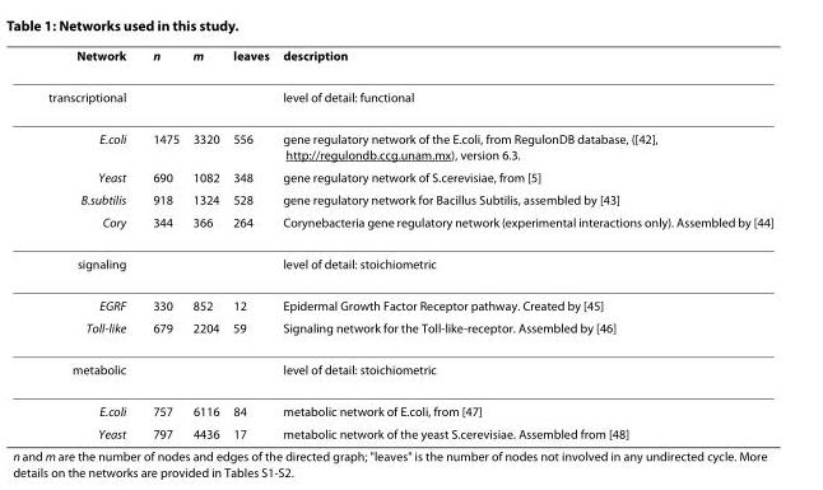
<table><thead><tr><td>Network</td><td>n</td><td>m</td><td>leaves</td><td>description</td></tr></thead><tbody><tr><td>transcriptional</td><td></td><td></td><td></td><td>level of detail: functional</td></tr><tr><td>E.coli</td><td>1475</td><td>3320</td><td>556</td><td>gene regulatory network of the E.coli, from RegulonDB database, ([42], http://regulondb.ccg.unam.mx), version 6.3.</td></tr><tr><td>Yeast</td><td>690</td><td>1082</td><td>348</td><td>gene regulatory network of S.cerevisiae, from [5]</td></tr><tr><td>B.subtilis</td><td>918</td><td>1324</td><td>528</td><td>gene regulatory network for Bacillus Subtilis, assembled by [43]</td></tr><tr><td>Cory</td><td>344</td><td>366</td><td>264</td><td>Corynebacteria gene regulatory network (experimental interactions only). Assembled by [44]</td></tr><tr><td>signaling</td><td></td><td></td><td></td><td>level of detail: stoichiometric</td></tr><tr><td>EGRF</td><td>330</td><td>852</td><td>12</td><td>Epidermal Growth Factor Receptor pathway. Created by [45]</td></tr><tr><td>Toll-like</td><td>679</td><td>2204</td><td>59</td><td>Signaling network for the Toll-like-receptor. Assembled by [46]</td></tr><tr><td>metabolic</td><td></td><td></td><td></td><td>level of detail: stoichiometric</td></tr><tr><td>E.coli</td><td>757</td><td>6116</td><td>84</td><td>metabolic network of E.coli, from [47]</td></tr><tr><td>Yeast</td><td>797</td><td>4436</td><td>17</td><td>metabolic network of the yeast S.cerevisiae. Assembled from [48]</td></tr></tbody></table>